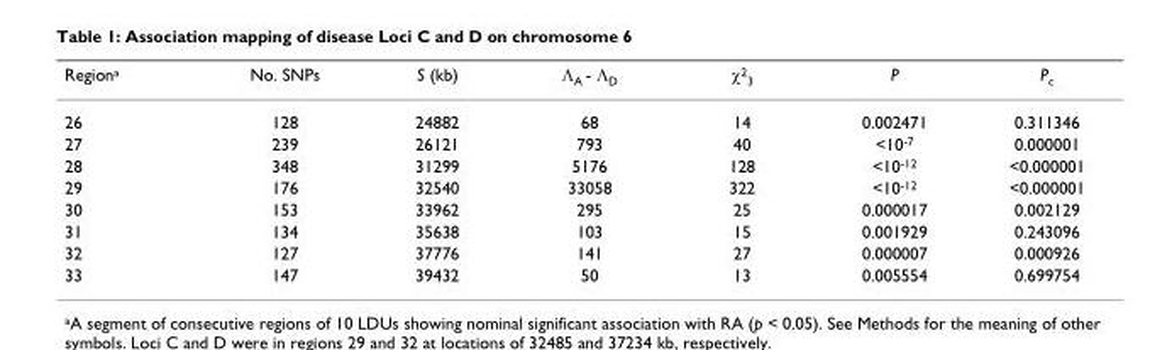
<table><thead><tr><td>Region<sup>a</sup></td><td>No. SNPs</td><td>S (kb)</td><td>Λ<sub>A</sub> - Λ<sub>D</sub></td><td>χ<sup>2</sup><sub>3</sub></td><td>P</td><td>P<sub>c</sub></td></tr></thead><tbody><tr><td>26</td><td>128</td><td>24882</td><td>68</td><td>14</td><td>0.002471</td><td>0.311346</td></tr><tr><td>27</td><td>239</td><td>26121</td><td>793</td><td>40</td><td>&lt;10<sup>-7</sup></td><td>0.000001</td></tr><tr><td>28</td><td>348</td><td>31299</td><td>5176</td><td>128</td><td>&lt;10<sup>-12</sup></td><td>&lt;0.000001</td></tr><tr><td>29</td><td>176</td><td>32540</td><td>33058</td><td>322</td><td>&lt;10<sup>-12</sup></td><td>&lt;0.000001</td></tr><tr><td>30</td><td>153</td><td>33962</td><td>295</td><td>25</td><td>0.000017</td><td>0.002129</td></tr><tr><td>31</td><td>134</td><td>35638</td><td>103</td><td>15</td><td>0.001929</td><td>0.243096</td></tr><tr><td>32</td><td>127</td><td>37776</td><td>141</td><td>27</td><td>0.000007</td><td>0.000926</td></tr><tr><td>33</td><td>147</td><td>39432</td><td>50</td><td>13</td><td>0.005554</td><td>0.699754</td></tr></tbody></table>